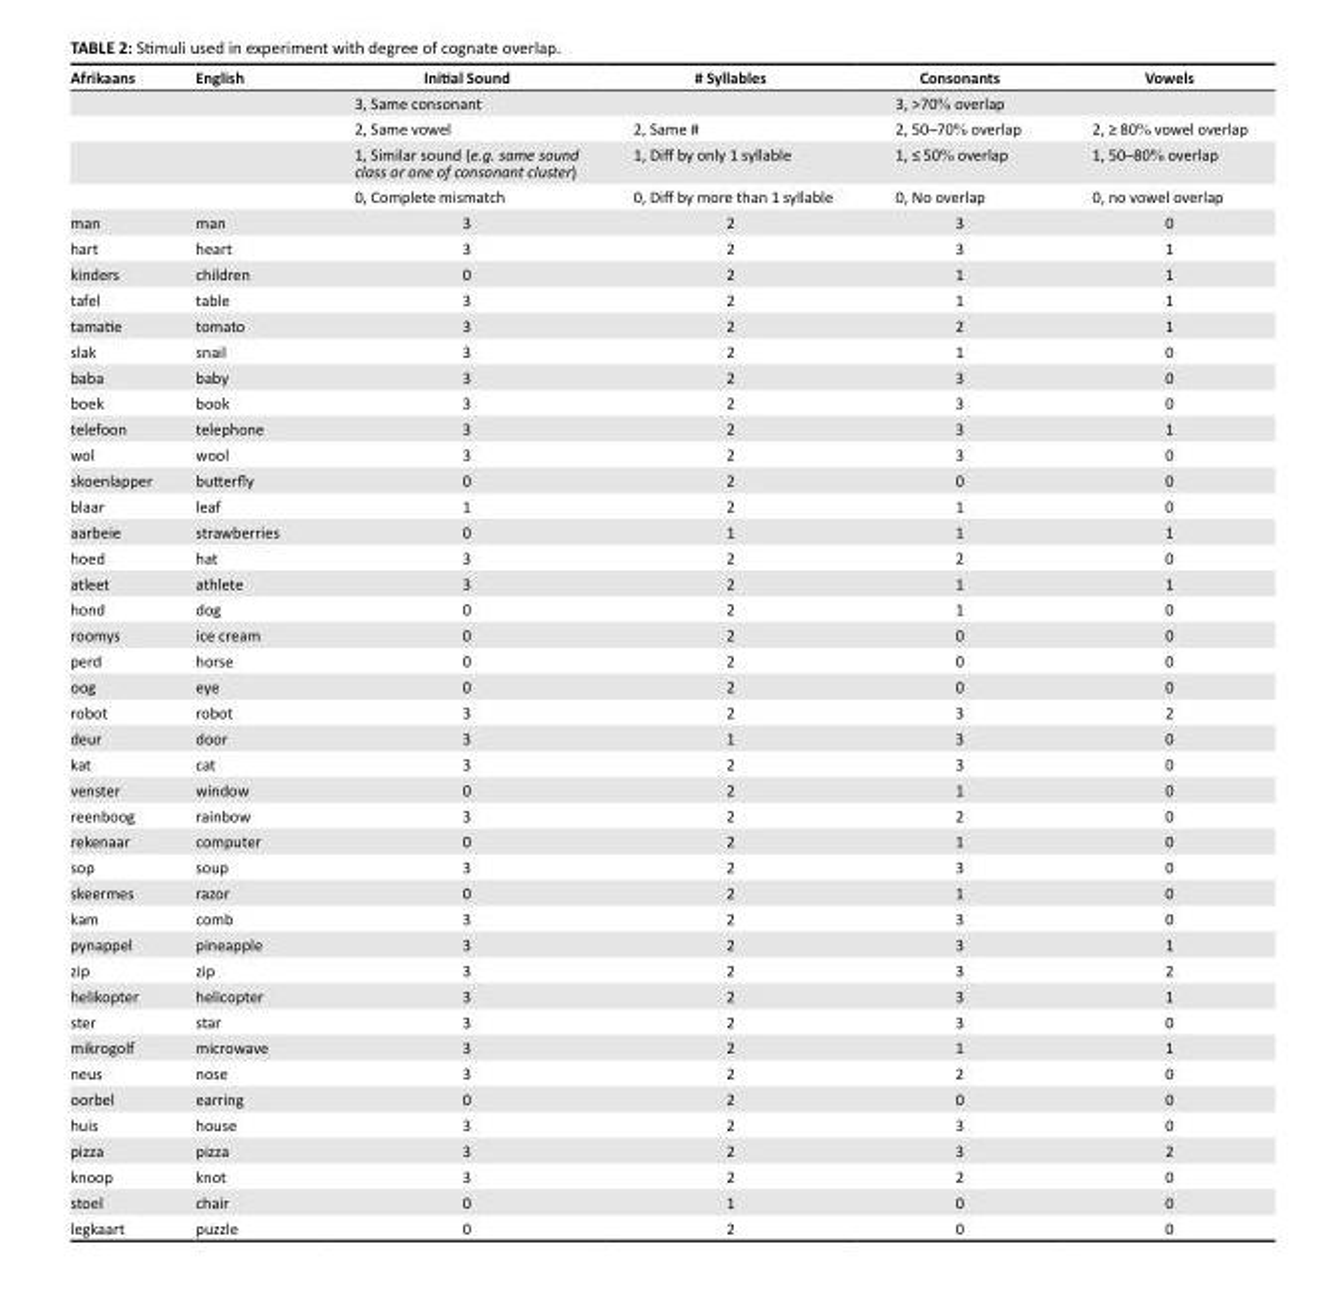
<table><thead><tr><td>Afrikaans</td><td>English</td><td>Initial Sound</td><td># Syllables</td><td>Consonants</td><td>Vowels</td></tr></thead><tbody><tr><td></td><td></td><td>3, Same consonant</td><td></td><td>3, &gt;70% overlap</td><td></td></tr><tr><td></td><td></td><td>2, Same vowel</td><td>2, Same #</td><td>2, 50–70% overlap</td><td>2, ≥ 80% vowel overlap</td></tr><tr><td></td><td></td><td>1, Similar sound (e.g. same sound class or one of consonant cluster)</td><td>1, Diff by only 1 syllable</td><td>1, ≤ 50% overlap</td><td>1, 50–80% overlap</td></tr><tr><td></td><td></td><td>0, Complete mismatch</td><td>0, Diff by more than 1 syllable</td><td>0, No overlap</td><td>0, no vowel overlap</td></tr><tr><td>man</td><td>man</td><td>3</td><td>2</td><td>3</td><td>0</td></tr><tr><td>hart</td><td>heart</td><td>3</td><td>2</td><td>3</td><td>1</td></tr><tr><td>kinders</td><td>children</td><td>0</td><td>2</td><td>1</td><td>1</td></tr><tr><td>tafel</td><td>table</td><td>3</td><td>2</td><td>1</td><td>1</td></tr><tr><td>tamatie</td><td>tomato</td><td>3</td><td>2</td><td>2</td><td>1</td></tr><tr><td>slak</td><td>snail</td><td>3</td><td>2</td><td>1</td><td>0</td></tr><tr><td>baba</td><td>baby</td><td>3</td><td>2</td><td>3</td><td>0</td></tr><tr><td>boek</td><td>book</td><td>3</td><td>2</td><td>3</td><td>0</td></tr><tr><td>telefoon</td><td>telephone</td><td>3</td><td>2</td><td>3</td><td>1</td></tr><tr><td>wol</td><td>wool</td><td>3</td><td>2</td><td>3</td><td>0</td></tr><tr><td>skoenlapper</td><td>butterfly</td><td>0</td><td>2</td><td>0</td><td>0</td></tr><tr><td>blaar</td><td>leaf</td><td>1</td><td>2</td><td>1</td><td>0</td></tr><tr><td>aarbeie</td><td>strawberries</td><td>0</td><td>1</td><td>1</td><td>1</td></tr><tr><td>hoed</td><td>hat</td><td>3</td><td>2</td><td>2</td><td>0</td></tr><tr><td>atleet</td><td>athlete</td><td>3</td><td>2</td><td>1</td><td>1</td></tr><tr><td>hond</td><td>dog</td><td>0</td><td>2</td><td>1</td><td>0</td></tr><tr><td>roomys</td><td>ice cream</td><td>0</td><td>2</td><td>0</td><td>0</td></tr><tr><td>perd</td><td>horse</td><td>0</td><td>2</td><td>0</td><td>0</td></tr><tr><td>oog</td><td>eye</td><td>0</td><td>2</td><td>0</td><td>0</td></tr><tr><td>robot</td><td>robot</td><td>3</td><td>2</td><td>3</td><td>2</td></tr><tr><td>deur</td><td>door</td><td>3</td><td>1</td><td>3</td><td>0</td></tr><tr><td>kat</td><td>cat</td><td>3</td><td>2</td><td>3</td><td>0</td></tr><tr><td>venster</td><td>window</td><td>0</td><td>2</td><td>1</td><td>0</td></tr><tr><td>reenboog</td><td>rainbow</td><td>3</td><td>2</td><td>2</td><td>0</td></tr><tr><td>rekenaar</td><td>computer</td><td>0</td><td>2</td><td>1</td><td>0</td></tr><tr><td>sop</td><td>soup</td><td>3</td><td>2</td><td>3</td><td>0</td></tr><tr><td>skeermes</td><td>razor</td><td>0</td><td>2</td><td>1</td><td>0</td></tr><tr><td>kam</td><td>comb</td><td>3</td><td>2</td><td>3</td><td>0</td></tr><tr><td>pynappel</td><td>pineapple</td><td>3</td><td>2</td><td>3</td><td>1</td></tr><tr><td>zip</td><td>zip</td><td>3</td><td>2</td><td>3</td><td>2</td></tr><tr><td>helikopter</td><td>helicopter</td><td>3</td><td>2</td><td>3</td><td>1</td></tr><tr><td>ster</td><td>star</td><td>3</td><td>2</td><td>3</td><td>0</td></tr><tr><td>mikrogolf</td><td>microwave</td><td>3</td><td>2</td><td>1</td><td>1</td></tr><tr><td>neus</td><td>nose</td><td>3</td><td>2</td><td>2</td><td>0</td></tr><tr><td>oorbel</td><td>earring</td><td>0</td><td>2</td><td>0</td><td>0</td></tr><tr><td>huis</td><td>house</td><td>3</td><td>2</td><td>3</td><td>0</td></tr><tr><td>pizza</td><td>pizza</td><td>3</td><td>2</td><td>3</td><td>2</td></tr><tr><td>knoop</td><td>knot</td><td>3</td><td>2</td><td>2</td><td>0</td></tr><tr><td>stoel</td><td>chair</td><td>0</td><td>1</td><td>0</td><td>0</td></tr><tr><td>legkaart</td><td>puzzle</td><td>0</td><td>2</td><td>0</td><td>0</td></tr></tbody></table>